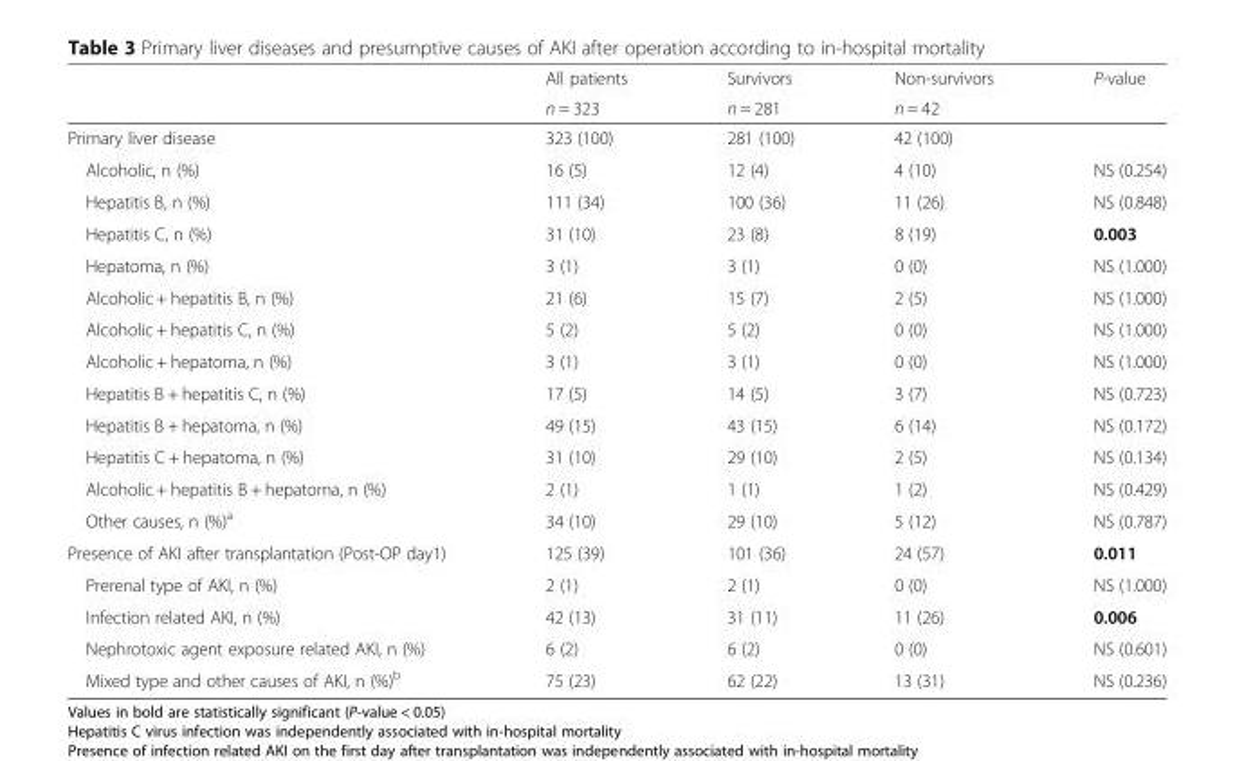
<table><thead><tr><td rowspan="2"></td><td rowspan="2">All patients n = 323</td><td rowspan="2">Survivors n = 281</td><td rowspan="2">Non-survivors n = 42</td><td rowspan="2">P-value</td></tr><tr></tr></thead><tbody><tr><td>Primary liver disease</td><td>323 (100)</td><td>281 (100)</td><td>42 (100)</td><td></td></tr><tr><td>Alcoholic, n (%)</td><td>16 (5)</td><td>12 (4)</td><td>4 (10)</td><td>NS (0.254)</td></tr><tr><td>Hepatitis B, n (%)</td><td>111 (34)</td><td>100 (36)</td><td>11 (26)</td><td>NS (0.848)</td></tr><tr><td>Hepatitis C, n (%)</td><td>31 (10)</td><td>23 (8)</td><td>8 (19)</td><td>0.003</td></tr><tr><td>Hepatoma, n (%)</td><td>3 (1)</td><td>3 (1)</td><td>0 (0)</td><td>NS (1.000)</td></tr><tr><td>Alcoholic + hepatitis B, n (%)</td><td>21 (6)</td><td>15 (7)</td><td>2 (5)</td><td>NS (1.000)</td></tr><tr><td>Alcoholic + hepatitis C, n (%)</td><td>5 (2)</td><td>5 (2)</td><td>0 (0)</td><td>NS (1.000)</td></tr><tr><td>Alcoholic + hepatoma, n (%)</td><td>3 (1)</td><td>3 (1)</td><td>0 (0)</td><td>NS (1.000)</td></tr><tr><td>Hepatitis B + hepatitis C, n (%)</td><td>17 (5)</td><td>14 (5)</td><td>3 (7)</td><td>NS (0.723)</td></tr><tr><td>Hepatitis B + hepatoma, n (%)</td><td>49 (15)</td><td>43 (15)</td><td>6 (14)</td><td>NS (0.172)</td></tr><tr><td>Hepatitis C + hepatoma, n (%)</td><td>31 (10)</td><td>29 (10)</td><td>2 (5)</td><td>NS (0.134)</td></tr><tr><td>Alcoholic + hepatitis B + hepatoma, n (%)</td><td>2 (1)</td><td>1 (1)</td><td>1 (2)</td><td>NS (0.429)</td></tr><tr><td>Other causes, n (%)<sup>a</sup></td><td>34 (10)</td><td>29 (10)</td><td>5 (12)</td><td>NS (0.787)</td></tr><tr><td>Presence of AKI after transplantation (Post-OP day1)</td><td>125 (39)</td><td>101 (36)</td><td>24 (57)</td><td>0.011</td></tr><tr><td>Prerenal type of AKI, n (%)</td><td>2 (1)</td><td>2 (1)</td><td>0 (0)</td><td>NS (1.000)</td></tr><tr><td>Infection related AKI, n (%)</td><td>42 (13)</td><td>31 (11)</td><td>11 (26)</td><td>0.006</td></tr><tr><td>Nephrotoxic agent exposure related AKI, n (%)</td><td>6 (2)</td><td>6 (2)</td><td>0 (0)</td><td>NS (0.601)</td></tr><tr><td>Mixed type and other causes of AKI, n (%)<sup>b</sup></td><td>75 (23)</td><td>62 (22)</td><td>13 (31)</td><td>NS (0.236)</td></tr></tbody></table>